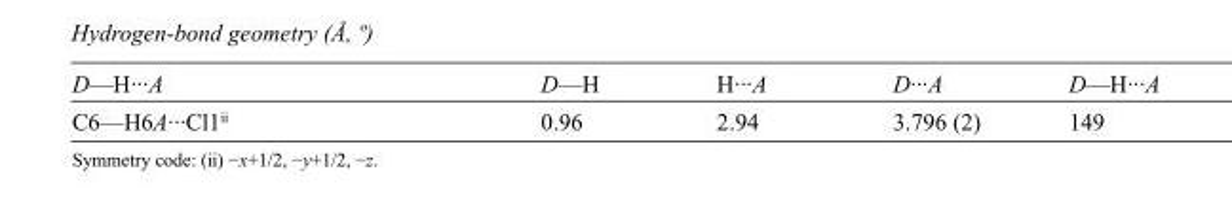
<table><tbody><tr><td>D—H···A</td><td>D—H</td><td>H···A</td><td>D···A</td><td>D—H···A</td></tr><tr><td>C6—H6A···Cl1<sup>ii</sup></td><td>0.96</td><td>2.94</td><td>3.796 (2)</td><td>149</td></tr></tbody></table>